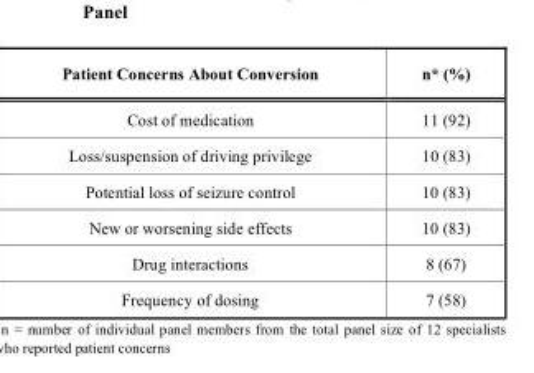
<table><thead><tr><td>Patient Concerns About Conversion</td><td>n* (%)</td></tr></thead><tbody><tr><td>Cost of medication</td><td>11 (92)</td></tr><tr><td>Loss/suspension of driving privilege</td><td>10 (83)</td></tr><tr><td>Potential loss of seizure control</td><td>10 (83)</td></tr><tr><td>New or worsening side effects</td><td>10 (83)</td></tr><tr><td>Drug interactions</td><td>8 (67)</td></tr><tr><td>Frequency of dosing</td><td>7 (58)</td></tr></tbody></table>